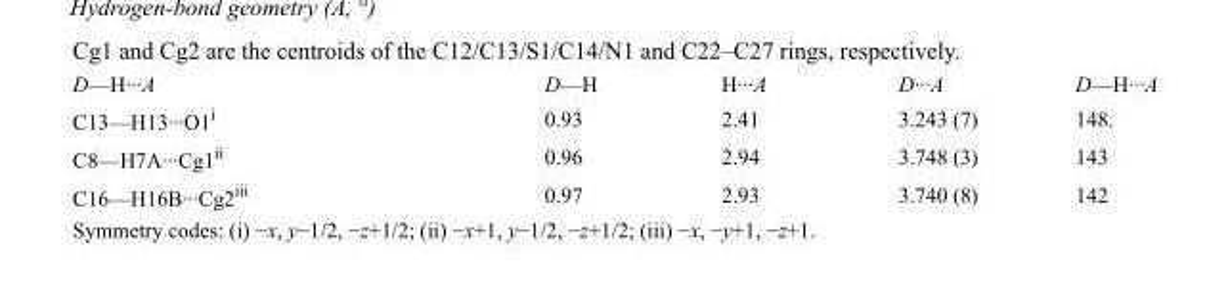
<table><tbody><tr><td>D—H···A</td><td>D—H</td><td>H···A</td><td>D···A</td><td>D—H···A</td></tr><tr><td>C13—H13···O1<sup>i</sup></td><td>0.93</td><td>2.41</td><td>3.243 (7)</td><td>148.</td></tr><tr><td>C8—H7A···Cg1<sup>ii</sup></td><td>0.96</td><td>2.94</td><td>3.748 (3)</td><td>143</td></tr><tr><td>C16—H16B···Cg2<sup>iii</sup></td><td>0.97</td><td>2.93</td><td>3.740 (8)</td><td>142</td></tr></tbody></table>